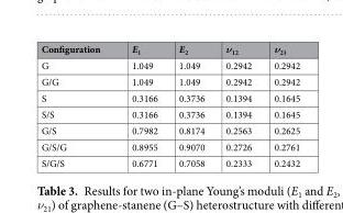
<table><thead><tr><td>Configuration</td><td>E<sub>1</sub></td><td>E<sub>2</sub></td><td>ν<sub>12</sub></td><td>ν<sub>21</sub></td></tr></thead><tbody><tr><td>G</td><td>1.049</td><td>1.049</td><td>0.2942</td><td>0.2942</td></tr><tr><td>G/G</td><td>1.049</td><td>1.049</td><td>0.2942</td><td>0.2942</td></tr><tr><td>S</td><td>0.3166</td><td>0.3736</td><td>0.1394</td><td>0.1645</td></tr><tr><td>S/S</td><td>0.3166</td><td>0.3736</td><td>0.1394</td><td>0.1645</td></tr><tr><td>G/S</td><td>0.7982</td><td>0.8174</td><td>0.2563</td><td>0.2625</td></tr><tr><td>G/S/G</td><td>0.8955</td><td>0.9070</td><td>0.2726</td><td>0.2761</td></tr><tr><td>S/G/S</td><td>0.6771</td><td>0.7058</td><td>0.2333</td><td>0.2432</td></tr></tbody></table>